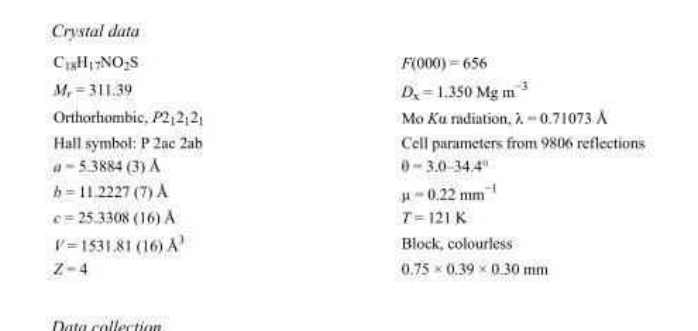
<table><tbody><tr><td>C<sub>18</sub>H<sub>17</sub>NO<sub>2</sub>S</td><td>F(000) = 656</td></tr><tr><td>M<sub>r</sub> = 311.39</td><td>D<sub>x</sub> = 1.350 Mg m<sup>−3</sup></td></tr><tr><td>Orthorhombic, P2<sub>1</sub>2<sub>1</sub>2<sub>1</sub></td><td>Mo Kα radiation, λ = 0.71073 Å</td></tr><tr><td>Hall symbol: P 2ac 2ab</td><td>Cell parameters from 9806 reflections</td></tr><tr><td>a = 5.3884 (3) Å</td><td>θ = 3.0–34.4°</td></tr><tr><td>b = 11.2227 (7) Å</td><td>µ = 0.22 mm<sup>−1</sup></td></tr><tr><td>c = 25.3308 (16) Å</td><td>T = 121 K</td></tr><tr><td>V = 1531.81 (16) Å<sup>3</sup></td><td>Block, colourless</td></tr><tr><td>Z = 4</td><td>0.75 × 0.39 × 0.30 mm</td></tr></tbody></table>